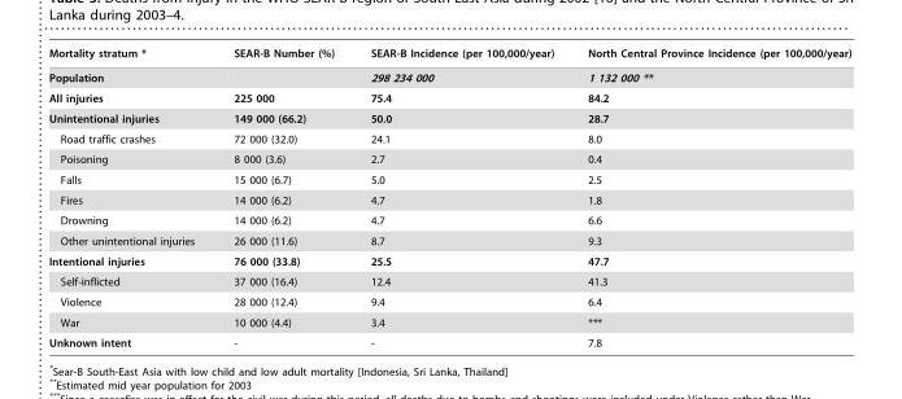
<table><thead><tr><td>Mortality stratum *</td><td>SEAR-B Number (%)</td><td>SEAR-B Incidence (per 100,000/year)</td><td>North Central Province Incidence (per 100,000/year)</td></tr></thead><tbody><tr><td>Population</td><td></td><td>298 234 000</td><td>1 132 000 **</td></tr><tr><td>All injuries</td><td>225 000</td><td>75.4</td><td>84.2</td></tr><tr><td>Unintentional injuries</td><td>149 000 (66.2)</td><td>50.0</td><td>28.7</td></tr><tr><td>Road traffic crashes</td><td>72 000 (32.0)</td><td>24.1</td><td>8.0</td></tr><tr><td>Poisoning</td><td>8 000 (3.6)</td><td>2.7</td><td>0.4</td></tr><tr><td>Falls</td><td>15 000 (6.7)</td><td>5.0</td><td>2.5</td></tr><tr><td>Fires</td><td>14 000 (6.2)</td><td>4.7</td><td>1.8</td></tr><tr><td>Drowning</td><td>14 000 (6.2)</td><td>4.7</td><td>6.6</td></tr><tr><td>Other unintentional injuries</td><td>26 000 (11.6)</td><td>8.7</td><td>9.3</td></tr><tr><td>Intentional injuries</td><td>76 000 (33.8)</td><td>25.5</td><td>47.7</td></tr><tr><td>Self-inflicted</td><td>37 000 (16.4)</td><td>12.4</td><td>41.3</td></tr><tr><td>Violence</td><td>28 000 (12.4)</td><td>9.4</td><td>6.4</td></tr><tr><td>War</td><td>10 000 (4.4)</td><td>3.4</td><td>***</td></tr><tr><td>Unknown intent</td><td>-</td><td>-</td><td>7.8</td></tr></tbody></table>